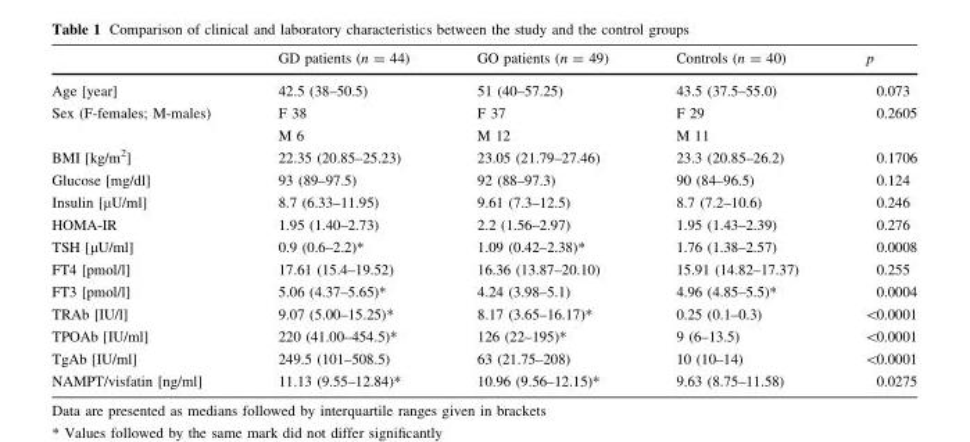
<table><thead><tr><td></td><td>GD patients (n = 44)</td><td>GO patients (n = 49)</td><td>Controls (n = 40)</td><td>p</td></tr></thead><tbody><tr><td>Age [year]</td><td>42.5 (38–50.5)</td><td>51 (40–57.25)</td><td>43.5 (37.5–55.0)</td><td>0.073</td></tr><tr><td rowspan="2">Sex (F-females; M-males)</td><td>F 38</td><td>F 37</td><td>F 29</td><td rowspan="2">0.2605</td></tr><tr><td>M 6</td><td>M 12</td><td>M 11</td></tr><tr><td>BMI [kg/m<sup>2</sup>]</td><td>22.35 (20.85–25.23)</td><td>23.05 (21.79–27.46)</td><td>23.3 (20.85–26.2)</td><td>0.1706</td></tr><tr><td>Glucose [mg/dl]</td><td>93 (89–97.5)</td><td>92 (88–97.3)</td><td>90 (84–96.5)</td><td>0.124</td></tr><tr><td>Insulin [μU/ml]</td><td>8.7 (6.33–11.95)</td><td>9.61 (7.3–12.5)</td><td>8.7 (7.2–10.6)</td><td>0.246</td></tr><tr><td>HOMA-IR</td><td>1.95 (1.40–2.73)</td><td>2.2 (1.56–2.97)</td><td>1.95 (1.43–2.39)</td><td>0.276</td></tr><tr><td>TSH [μU/ml]</td><td>0.9 (0.6–2.2)*</td><td>1.09 (0.42–2.38)*</td><td>1.76 (1.38–2.57)</td><td>0.0008</td></tr><tr><td>FT4 [pmol/l]</td><td>17.61 (15.4–19.52)</td><td>16.36 (13.87–20.10)</td><td>15.91 (14.82–17.37)</td><td>0.255</td></tr><tr><td>FT3 [pmol/l]</td><td>5.06 (4.37–5.65)*</td><td>4.24 (3.98–5.1)</td><td>4.96 (4.85–5.5)*</td><td>0.0004</td></tr><tr><td>TRAb [IU/l]</td><td>9.07 (5.00–15.25)*</td><td>8.17 (3.65–16.17)*</td><td>0.25 (0.1–0.3)</td><td>&lt;0.0001</td></tr><tr><td>TPOAb [IU/ml]</td><td>220 (41.00–454.5)*</td><td>126 (22–195)*</td><td>9 (6–13.5)</td><td>&lt;0.0001</td></tr><tr><td>TgAb [IU/ml]</td><td>249.5 (101–508.5)</td><td>63 (21.75–208)</td><td>10 (10–14)</td><td>&lt;0.0001</td></tr><tr><td>NAMPT/visfatin [ng/ml]</td><td>11.13 (9.55–12.84)*</td><td>10.96 (9.56–12.15)*</td><td>9.63 (8.75–11.58)</td><td>0.0275</td></tr></tbody></table>